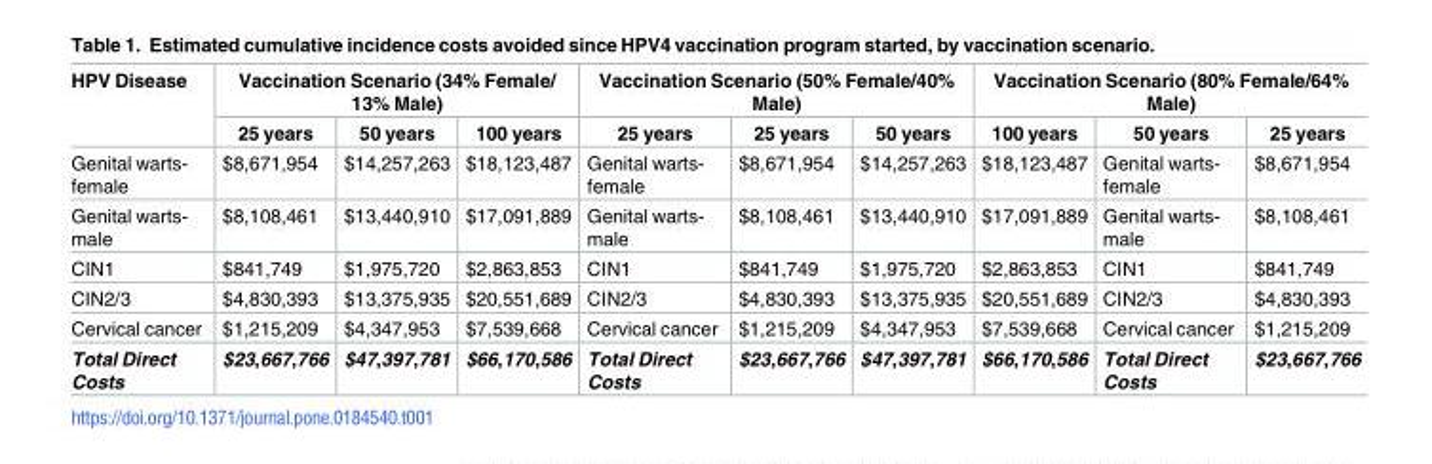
<table><thead><tr><td rowspan="2">HPV Disease</td><td colspan="3">Vaccination Scenario (34% Female/ 13% Male)</td><td colspan="3">Vaccination Scenario (50% Female/40% Male)</td><td colspan="3">Vaccination Scenario (80% Female/64% Male)</td></tr><tr><td>25 years</td><td>50 years</td><td>100 years</td><td>25 years</td><td>25 years</td><td>50 years</td><td>100 years</td><td>50 years</td><td>25 years</td></tr></thead><tbody><tr><td>Genital warts- female</td><td>$8,671,954</td><td>$14,257,263</td><td>$18,123,487</td><td>Genital warts- female</td><td>$8,671,954</td><td>$14,257,263</td><td>$18,123,487</td><td>Genital warts- female</td><td>$8,671,954</td></tr><tr><td>Genital warts- male</td><td>$8,108,461</td><td>$13,440,910</td><td>$17,091,889</td><td>Genital warts- male</td><td>$8,108,461</td><td>$13,440,910</td><td>$17,091,889</td><td>Genital warts- male</td><td>$8,108,461</td></tr><tr><td>CIN1</td><td>$841,749</td><td>$1,975,720</td><td>$2,863,853</td><td>CIN1</td><td>$841,749</td><td>$1,975,720</td><td>$2,863,853</td><td>CIN1</td><td>$841,749</td></tr><tr><td>CIN2/3</td><td>$4,830,393</td><td>$13,375,935</td><td>$20,551,689</td><td>CIN2/3</td><td>$4,830,393</td><td>$13,375,935</td><td>$20,551,689</td><td>CIN2/3</td><td>$4,830,393</td></tr><tr><td>Cervical cancer</td><td>$1,215,209</td><td>$4,347,953</td><td>$7,539,668</td><td>Cervical cancer</td><td>$1,215,209</td><td>$4,347,953</td><td>$7,539,668</td><td>Cervical cancer</td><td>$1,215,209</td></tr><tr><td>Total Direct Costs</td><td>$23,667,766</td><td>$47,397,781</td><td>$66,170,586</td><td>Total Direct Costs</td><td>$23,667,766</td><td>$47,397,781</td><td>$66,170,586</td><td>Total Direct Costs</td><td>$23,667,766</td></tr></tbody></table>